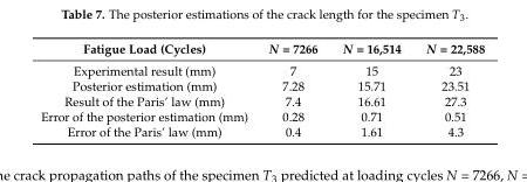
<table><thead><tr><td>Fatigue Load (Cycles)</td><td>N = 7266</td><td>N = 16,514</td><td>N = 22,588</td></tr></thead><tbody><tr><td>Experimental result (mm)</td><td>7</td><td>15</td><td>23</td></tr><tr><td>Posterior estimation (mm)</td><td>7.28</td><td>15.71</td><td>23.51</td></tr><tr><td>Result of the Paris’ law (mm)</td><td>7.4</td><td>16.61</td><td>27.3</td></tr><tr><td>Error of the posterior estimation (mm)</td><td>0.28</td><td>0.71</td><td>0.51</td></tr><tr><td>Error of the Paris’ law (mm)</td><td>0.4</td><td>1.61</td><td>4.3</td></tr></tbody></table>